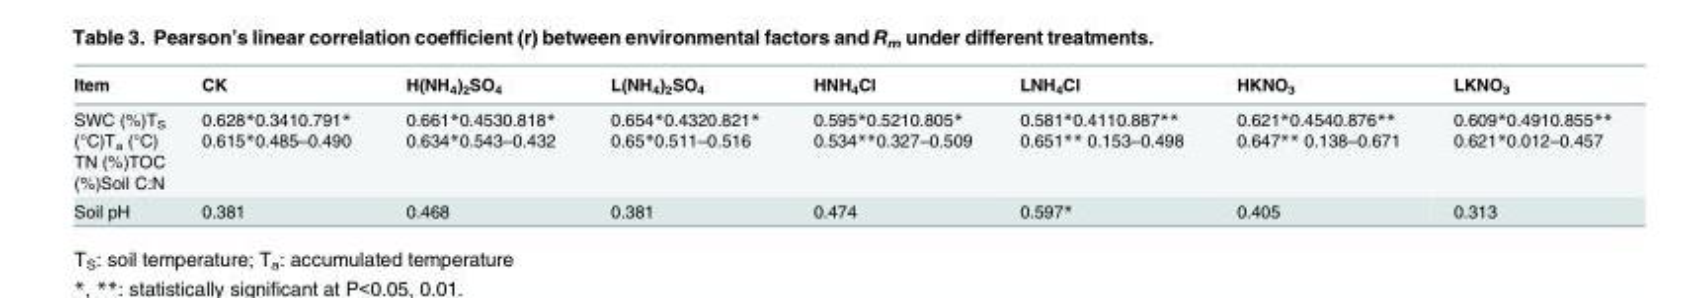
<table><thead><tr><td>Item</td><td>CK</td><td>H(NH<sub>4</sub>)<sub>2</sub>SO<sub>4</sub></td><td>L(NH<sub>4</sub>)<sub>2</sub>SO<sub>4</sub></td><td>HNH<sub>4</sub>Cl</td><td>LNH<sub>4</sub>Cl</td><td>HKNO<sub>3</sub></td><td>LKNO<sub>3</sub></td></tr></thead><tbody><tr><td>SWC (%)T<sub>S</sub> (°C)T<sub>a</sub> (°C) TN (%)TOC (%)Soil C:N</td><td>0.628*0.3410.791* 0.615*0.485–0.490</td><td>0.661*0.4530.818* 0.634*0.543–0.432</td><td>0.654*0.4320.821* 0.65*0.511–0.516</td><td>0.595*0.5210.805* 0.534**0.327–0.509</td><td>0.581*0.4110.887** 0.651** 0.153–0.498</td><td>0.621*0.4540.876** 0.647** 0.138–0.671</td><td>0.609*0.4910.855** 0.621*0.012–0.457</td></tr><tr><td>Soil pH</td><td>0.381</td><td>0.468</td><td>0.381</td><td>0.474</td><td>0.597*</td><td>0.405</td><td>0.313</td></tr></tbody></table>